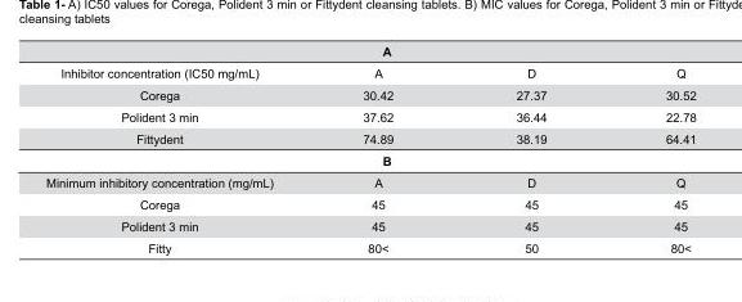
<table><thead><tr><td colspan="4">A</td></tr><tr><td>Inhibitor concentration (IC50 mg/mL)</td><td>A</td><td>D</td><td>Q</td></tr></thead><tbody><tr><td>Corega</td><td>30.42</td><td>27.37</td><td>30.52</td></tr><tr><td>Polident 3 min</td><td>37.62</td><td>36.44</td><td>22.78</td></tr><tr><td>Fittydent</td><td>74.89</td><td>38.19</td><td>64.41</td></tr><tr><td colspan="4">B</td></tr><tr><td>Minimum inhibitory concentration (mg/mL)</td><td>A</td><td>D</td><td>Q</td></tr><tr><td>Corega</td><td>45</td><td>45</td><td>45</td></tr><tr><td>Polident 3 min</td><td>45</td><td>45</td><td>45</td></tr><tr><td>Fitty</td><td>80&lt;</td><td>50</td><td>80&lt;</td></tr></tbody></table>